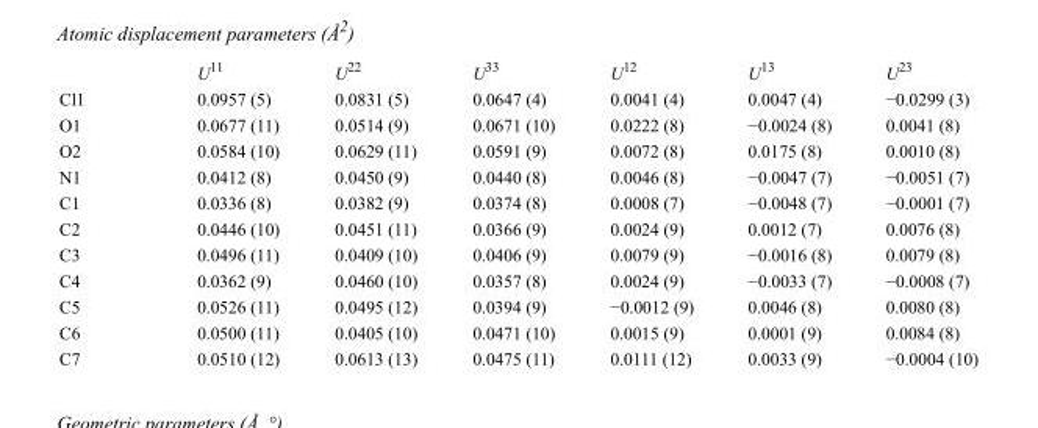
<table><thead><tr><td></td><td>U<sup>11</sup></td><td>U<sup>22</sup></td><td>U<sup>33</sup></td><td>U<sup>12</sup></td><td>U<sup>13</sup></td><td>U<sup>23</sup></td></tr></thead><tbody><tr><td>Cl1</td><td>0.0957 (5)</td><td>0.0831 (5)</td><td>0.0647 (4)</td><td>0.0041 (4)</td><td>0.0047 (4)</td><td>−0.0299 (3)</td></tr><tr><td>O1</td><td>0.0677 (11)</td><td>0.0514 (9)</td><td>0.0671 (10)</td><td>0.0222 (8)</td><td>−0.0024 (8)</td><td>0.0041 (8)</td></tr><tr><td>O2</td><td>0.0584 (10)</td><td>0.0629 (11)</td><td>0.0591 (9)</td><td>0.0072 (8)</td><td>0.0175 (8)</td><td>0.0010 (8)</td></tr><tr><td>N1</td><td>0.0412 (8)</td><td>0.0450 (9)</td><td>0.0440 (8)</td><td>0.0046 (8)</td><td>−0.0047 (7)</td><td>−0.0051 (7)</td></tr><tr><td>C1</td><td>0.0336 (8)</td><td>0.0382 (9)</td><td>0.0374 (8)</td><td>0.0008 (7)</td><td>−0.0048 (7)</td><td>−0.0001 (7)</td></tr><tr><td>C2</td><td>0.0446 (10)</td><td>0.0451 (11)</td><td>0.0366 (9)</td><td>0.0024 (9)</td><td>0.0012 (7)</td><td>0.0076 (8)</td></tr><tr><td>C3</td><td>0.0496 (11)</td><td>0.0409 (10)</td><td>0.0406 (9)</td><td>0.0079 (9)</td><td>−0.0016 (8)</td><td>0.0079 (8)</td></tr><tr><td>C4</td><td>0.0362 (9)</td><td>0.0460 (10)</td><td>0.0357 (8)</td><td>0.0024 (9)</td><td>−0.0033 (7)</td><td>−0.0008 (7)</td></tr><tr><td>C5</td><td>0.0526 (11)</td><td>0.0495 (12)</td><td>0.0394 (9)</td><td>−0.0012 (9)</td><td>0.0046 (8)</td><td>0.0080 (8)</td></tr><tr><td>C6</td><td>0.0500 (11)</td><td>0.0405 (10)</td><td>0.0471 (10)</td><td>0.0015 (9)</td><td>0.0001 (9)</td><td>0.0084 (8)</td></tr><tr><td>C7</td><td>0.0510 (12)</td><td>0.0613 (13)</td><td>0.0475 (11)</td><td>0.0111 (12)</td><td>0.0033 (9)</td><td>−0.0004 (10)</td></tr></tbody></table>